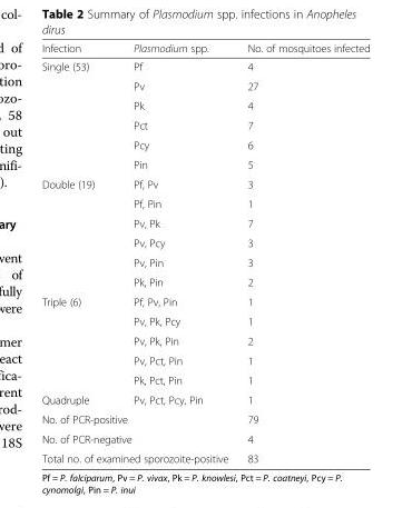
<table><thead><tr><td>Infection</td><td>Plasmodium spp.</td><td>No. of mosquitoes infected</td></tr></thead><tbody><tr><td rowspan="6">Single (53)</td><td>Pf</td><td>4</td></tr><tr><td>Pv</td><td>27</td></tr><tr><td>Pk</td><td>4</td></tr><tr><td>Pct</td><td>7</td></tr><tr><td>Pcy</td><td>6</td></tr><tr><td>Pin</td><td>5</td></tr><tr><td rowspan="6">Double (19)</td><td>Pf, Pv</td><td>3</td></tr><tr><td>Pf, Pin</td><td>1</td></tr><tr><td>Pv, Pk</td><td>7</td></tr><tr><td>Pv, Pcy</td><td>3</td></tr><tr><td>Pv, Pin</td><td>3</td></tr><tr><td>Pk, Pin</td><td>2</td></tr><tr><td rowspan="5">Triple (6)</td><td>Pf, Pv, Pin</td><td>1</td></tr><tr><td>Pv, Pk, Pcy</td><td>1</td></tr><tr><td>Pv, Pk, Pin</td><td>2</td></tr><tr><td>Pv, Pct, Pin</td><td>1</td></tr><tr><td>Pk, Pct, Pin</td><td>1</td></tr><tr><td>Quadruple</td><td>Pv, Pct, Pcy, Pin</td><td>1</td></tr><tr><td colspan="2">No. of PCR-positive</td><td>79</td></tr><tr><td colspan="2">No. of PCR-negative</td><td>4</td></tr><tr><td colspan="2">Total no. of examined sporozoite-positive</td><td>83</td></tr></tbody></table>